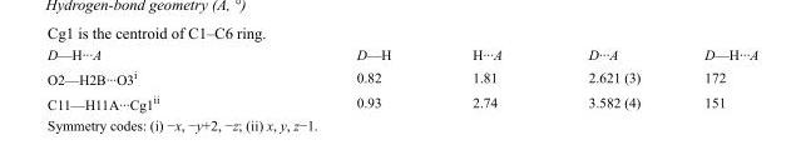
<table><tbody><tr><td>D—H···A</td><td>D—H</td><td>H···A</td><td>D···A</td><td>D—H···A</td></tr><tr><td>O2—H2B···O3<sup>i</sup></td><td>0.82</td><td>1.81</td><td>2.621 (3)</td><td>172</td></tr><tr><td>C11—H11A···Cg1<sup>ii</sup></td><td>0.93</td><td>2.74</td><td>3.582 (4)</td><td>151</td></tr></tbody></table>